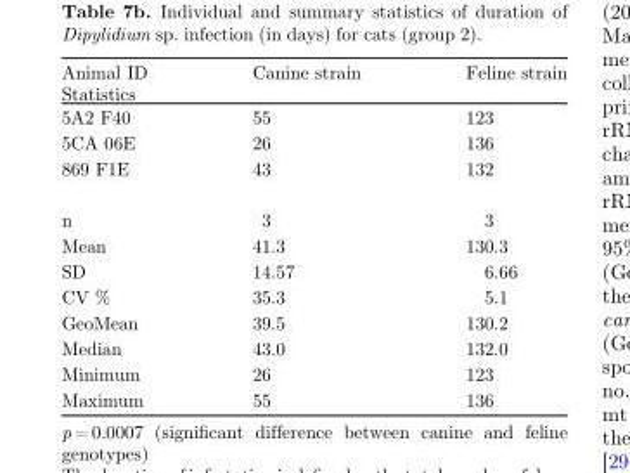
<table><thead><tr><td>Animal ID Statistics</td><td>Canine strain</td><td>Feline strain</td></tr></thead><tbody><tr><td>5A2 F40</td><td>55</td><td>123</td></tr><tr><td>5CA 06E</td><td>26</td><td>136</td></tr><tr><td>869 F1E</td><td>43</td><td>132</td></tr><tr><td>n</td><td>3</td><td>3</td></tr><tr><td>Mean</td><td>41.3</td><td>130.3</td></tr><tr><td>SD</td><td>14.57</td><td>6.66</td></tr><tr><td>CV %</td><td>35.3</td><td>5.1</td></tr><tr><td>GeoMean</td><td>39.5</td><td>130.2</td></tr><tr><td>Median</td><td>43.0</td><td>132.0</td></tr><tr><td>Minimum</td><td>26</td><td>123</td></tr><tr><td>Maximum</td><td>55</td><td>136</td></tr></tbody></table>